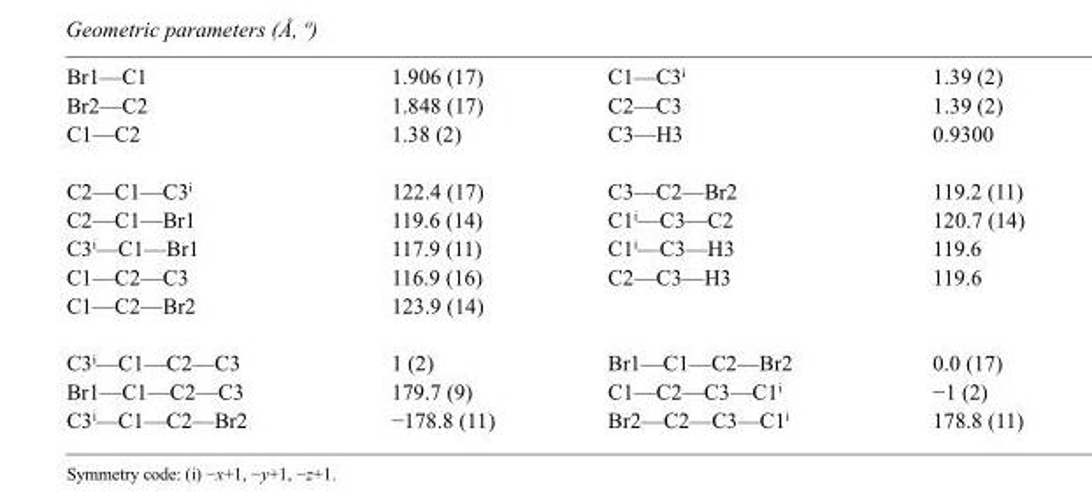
<table><tbody><tr><td>Br1—C1</td><td>1.906 (17)</td><td>C1—C3<sup>i</sup></td><td>1.39 (2)</td></tr><tr><td>Br2—C2</td><td>1.848 (17)</td><td>C2—C3</td><td>1.39 (2)</td></tr><tr><td>C1—C2</td><td>1.38 (2)</td><td>C3—H3</td><td>0.9300</td></tr><tr><td>C2—C1—C3<sup>i</sup></td><td>122.4 (17)</td><td>C3—C2—Br2</td><td>119.2 (11)</td></tr><tr><td>C2—C1—Br1</td><td>119.6 (14)</td><td>C1<sup>i</sup>—C3—C2</td><td>120.7 (14)</td></tr><tr><td>C3<sup>i</sup>—C1—Br1</td><td>117.9 (11)</td><td>C1<sup>i</sup>—C3—H3</td><td>119.6</td></tr><tr><td>C1—C2—C3</td><td>116.9 (16)</td><td>C2—C3—H3</td><td>119.6</td></tr><tr><td>C1—C2—Br2</td><td>123.9 (14)</td><td></td><td></td></tr><tr><td>C3<sup>i</sup>—C1—C2—C3</td><td>1 (2)</td><td>Br1—C1—C2—Br2</td><td>0.0 (17)</td></tr><tr><td>Br1—C1—C2—C3</td><td>179.7 (9)</td><td>C1—C2—C3—C1<sup>i</sup></td><td>−1 (2)</td></tr><tr><td>C3<sup>i</sup>—C1—C2—Br2</td><td>−178.8 (11)</td><td>Br2—C2—C3—C1<sup>i</sup></td><td>178.8 (11)</td></tr></tbody></table>